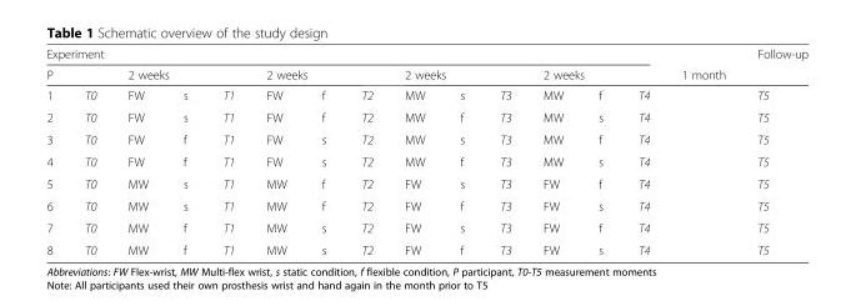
<table><thead><tr><td colspan="14">Experiment</td><td rowspan="3">1 month</td><td rowspan="3">Follow-up T5</td></tr><tr><td rowspan="2">P 1</td><td rowspan="2">T0</td><td colspan="2">2 weeks</td><td rowspan="2">T1</td><td colspan="2">2 weeks</td><td rowspan="2">T2</td><td colspan="2">2 weeks</td><td rowspan="2">T3</td><td colspan="2">2 weeks</td><td rowspan="2">T4</td></tr><tr><td>FW</td><td>s</td><td>FW</td><td>f</td><td>MW</td><td>s</td><td>MW</td><td>f</td></tr></thead><tbody><tr><td>2</td><td>T0</td><td>FW</td><td>s</td><td>T1</td><td>FW</td><td>f</td><td>T2</td><td>MW</td><td>f</td><td>T3</td><td>MW</td><td>s</td><td>T4</td><td></td><td>T5</td></tr><tr><td>3</td><td>T0</td><td>FW</td><td>f</td><td>T1</td><td>FW</td><td>s</td><td>T2</td><td>MW</td><td>s</td><td>T3</td><td>MW</td><td>f</td><td>T4</td><td></td><td>T5</td></tr><tr><td>4</td><td>T0</td><td>FW</td><td>f</td><td>T1</td><td>FW</td><td>s</td><td>T2</td><td>MW</td><td>f</td><td>T3</td><td>MW</td><td>s</td><td>T4</td><td></td><td>T5</td></tr><tr><td>5</td><td>T0</td><td>MW</td><td>s</td><td>T1</td><td>MW</td><td>f</td><td>T2</td><td>FW</td><td>s</td><td>T3</td><td>FW</td><td>f</td><td>T4</td><td></td><td>T5</td></tr><tr><td>6</td><td>T0</td><td>MW</td><td>s</td><td>T1</td><td>MW</td><td>f</td><td>T2</td><td>FW</td><td>f</td><td>T3</td><td>FW</td><td>s</td><td>T4</td><td></td><td>T5</td></tr><tr><td>7</td><td>T0</td><td>MW</td><td>f</td><td>T1</td><td>MW</td><td>s</td><td>T2</td><td>FW</td><td>s</td><td>T3</td><td>FW</td><td>f</td><td>T4</td><td></td><td>T5</td></tr><tr><td>8</td><td>T0</td><td>MW</td><td>f</td><td>T1</td><td>MW</td><td>s</td><td>T2</td><td>FW</td><td>f</td><td>T3</td><td>FW</td><td>s</td><td>T4</td><td></td><td>T5</td></tr></tbody></table>